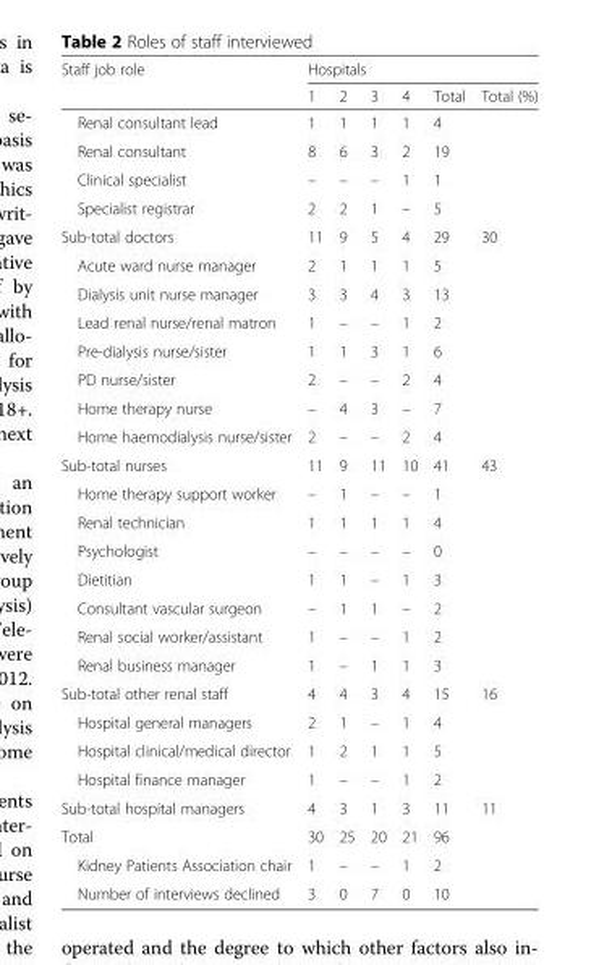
<table><thead><tr><td rowspan="2">Staff job role</td><td colspan="6">Hospitals</td></tr><tr><td>1</td><td>2</td><td>3</td><td>4</td><td>Total</td><td>Total (%)</td></tr></thead><tbody><tr><td>Renal consultant lead</td><td>1</td><td>1</td><td>1</td><td>1</td><td>4</td><td rowspan="4"></td></tr><tr><td>Renal consultant</td><td>8</td><td>6</td><td>3</td><td>2</td><td>19</td></tr><tr><td>Clinical specialist</td><td>–</td><td>–</td><td>–</td><td>1</td><td>1</td></tr><tr><td>Specialist registrar</td><td>2</td><td>2</td><td>1</td><td>–</td><td>5</td></tr><tr><td>Sub-total doctors</td><td>11</td><td>9</td><td>5</td><td>4</td><td>29</td><td>30</td></tr><tr><td>Acute ward nurse manager</td><td>2</td><td>1</td><td>1</td><td>1</td><td>5</td><td rowspan="7"></td></tr><tr><td>Dialysis unit nurse manager</td><td>3</td><td>3</td><td>4</td><td>3</td><td>13</td></tr><tr><td>Lead renal nurse/renal matron</td><td>1</td><td>–</td><td>–</td><td>1</td><td>2</td></tr><tr><td>Pre-dialysis nurse/sister</td><td>1</td><td>1</td><td>3</td><td>1</td><td>6</td></tr><tr><td>PD nurse/sister</td><td>2</td><td>–</td><td>–</td><td>2</td><td>4</td></tr><tr><td>Home therapy nurse</td><td>–</td><td>4</td><td>3</td><td>–</td><td>7</td></tr><tr><td>Home haemodialysis nurse/sister</td><td>2</td><td>–</td><td>–</td><td>2</td><td>4</td></tr><tr><td>Sub-total nurses</td><td>11</td><td>9</td><td>11</td><td>10</td><td>41</td><td>43</td></tr><tr><td>Home therapy support worker</td><td>–</td><td>1</td><td>–</td><td>–</td><td>1</td><td rowspan="7"></td></tr><tr><td>Renal technician</td><td>1</td><td>1</td><td>1</td><td>1</td><td>4</td></tr><tr><td>Psychologist</td><td>–</td><td>–</td><td>–</td><td>–</td><td>0</td></tr><tr><td>Dietitian</td><td>1</td><td>1</td><td>–</td><td>1</td><td>3</td></tr><tr><td>Consultant vascular surgeon</td><td>–</td><td>1</td><td>1</td><td>–</td><td>2</td></tr><tr><td>Renal social worker/assistant</td><td>1</td><td>–</td><td>–</td><td>1</td><td>2</td></tr><tr><td>Renal business manager</td><td>1</td><td>–</td><td>1</td><td>1</td><td>3</td></tr><tr><td>Sub-total other renal staff</td><td>4</td><td>4</td><td>3</td><td>4</td><td>15</td><td>16</td></tr><tr><td>Hospital general managers</td><td>2</td><td>1</td><td>–</td><td>1</td><td>4</td><td rowspan="3"></td></tr><tr><td>Hospital clinical/medical director</td><td>1</td><td>2</td><td>1</td><td>1</td><td>5</td></tr><tr><td>Hospital finance manager</td><td>1</td><td>–</td><td>–</td><td>1</td><td>2</td></tr><tr><td>Sub-total hospital managers</td><td>4</td><td>3</td><td>1</td><td>3</td><td>11</td><td rowspan="4">11</td></tr><tr><td>Total</td><td>30</td><td>25</td><td>20</td><td>21</td><td>96</td></tr><tr><td>Kidney Patients Association chair</td><td>1</td><td>–</td><td>–</td><td>1</td><td>2</td></tr><tr><td>Number of interviews declined</td><td>3</td><td>0</td><td>7</td><td>0</td><td>10</td></tr></tbody></table>